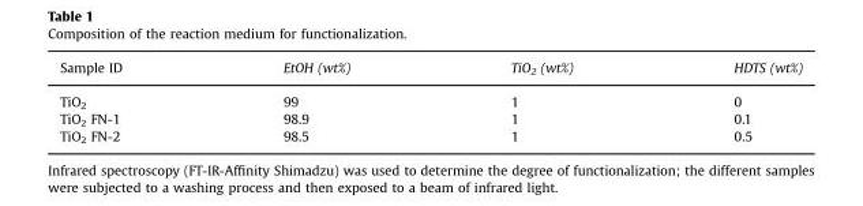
<table><thead><tr><td>Sample ID</td><td>EtOH (wt%)</td><td>TiO<sub>2</sub> (wt%)</td><td>HDTS (wt%)</td></tr></thead><tbody><tr><td>TiO<sub>2</sub></td><td>99</td><td>1</td><td>0</td></tr><tr><td>TiO<sub>2</sub> FN-1</td><td>98.9</td><td>1</td><td>0.1</td></tr><tr><td>TiO<sub>2</sub> FN-2</td><td>98.5</td><td>1</td><td>0.5</td></tr></tbody></table>